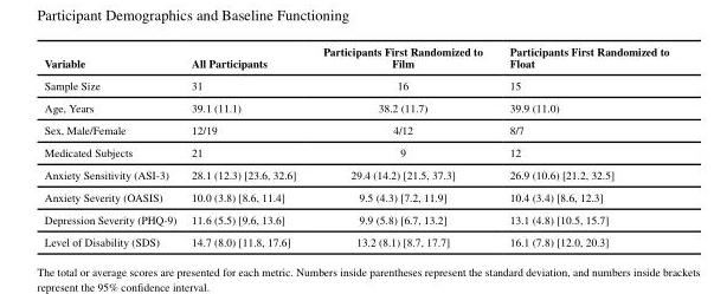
<table><thead><tr><td>Variable</td><td>All Participants</td><td>Participants First Randomized to Film</td><td>Participants First Randomized to Float</td></tr></thead><tbody><tr><td>Sample Size</td><td>31</td><td>16</td><td>15</td></tr><tr><td>Age, Years</td><td>39.1 (11.1)</td><td>38.2 (11.7)</td><td>39.9 (11.0)</td></tr><tr><td>Sex, Male/Female</td><td>12/19</td><td>4/12</td><td>8/7</td></tr><tr><td>Medicated Subjects</td><td>21</td><td>9</td><td>12</td></tr><tr><td>Anxiety Sensitivity (ASI-3)</td><td>28.1 (12.3) [23.6, 32.6]</td><td>29.4 (14.2) [21.5, 37.3]</td><td>26.9 (10.6) [21.2, 32.5]</td></tr><tr><td>Anxiety Severity (OASIS)</td><td>10.0 (3.8) [8.6, 11.4]</td><td>9.5 (4.3) [7.2, 11.9]</td><td>10.4 (3.4) [8.6, 12.3]</td></tr><tr><td>Depression Severity (PHQ-9)</td><td>11.6 (5.5) [9.6, 13.6]</td><td>9.9 (5.8) [6.7, 13.2]</td><td>13.1 (4.8) [10.5, 15.7]</td></tr><tr><td>Level of Disability (SDS)</td><td>14.7 (8.0) [11.8, 17.6]</td><td>13.2 (8.1) [8.7, 17.7]</td><td>16.1 (7.8) [12.0, 20.3]</td></tr></tbody></table>